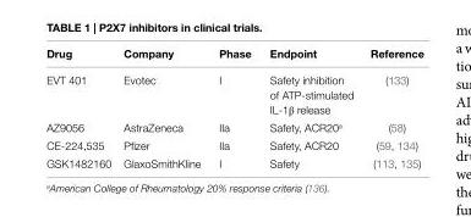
<table><thead><tr><td>Drug</td><td>Company</td><td>Phase</td><td>endpoint</td><td>Reference</td></tr></thead><tbody><tr><td>EVT 401</td><td>Evotec</td><td>I</td><td>Safety inhibition of ATP-stimulated IL-1β release</td><td>(133)</td></tr><tr><td>AZ9056</td><td>AstraZeneca</td><td>IIa</td><td>Safety, ACR20<sup>a</sup></td><td>(58)</td></tr><tr><td>CE-224,535</td><td>Pfizer</td><td>IIa</td><td>Safety, ACR20</td><td>(59, 134)</td></tr><tr><td>GSK1482160</td><td>GlaxoSmithKline</td><td>I</td><td>Safety</td><td>(113, 135)</td></tr></tbody></table>